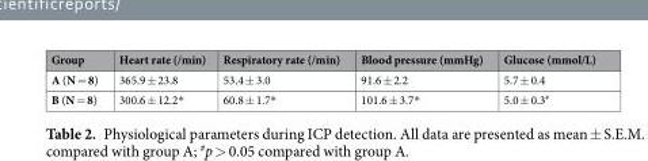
<table><thead><tr><td>Group</td><td>Heart rate (/min)</td><td>Respiratory rate (/min)</td><td>Blood pressure (mmHg)</td><td>Glucose (mmol/L)</td></tr></thead><tbody><tr><td>A (N = 8)</td><td>365.9 ± 23.8</td><td>53.4 ± 3.0</td><td>91.6 ± 2.2</td><td>5.7 ± 0.4</td></tr><tr><td>B (N = 8)</td><td>300.6 ± 12.2*</td><td>60.8 ± 1.7*</td><td>101.6 ± 3.7*</td><td>5.0 ± 0.3<sup>#</sup></td></tr></tbody></table>